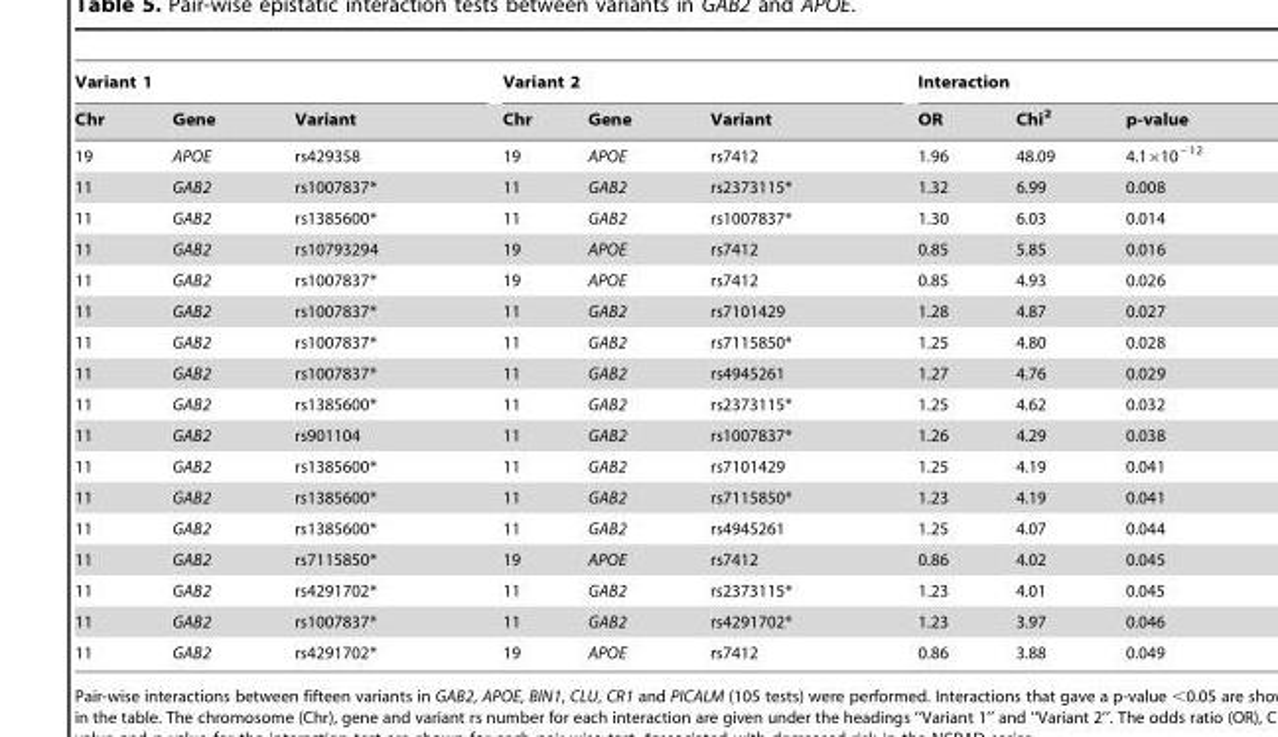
<table><thead><tr><td colspan="3">Variant 1</td><td colspan="3">Variant 2</td><td colspan="3">Interaction</td></tr><tr><td>Chr</td><td>Gene</td><td>Variant</td><td>Chr</td><td>Gene</td><td>Variant</td><td>OR</td><td>Chi<sup>2</sup></td><td>p-value</td></tr></thead><tbody><tr><td>19</td><td>APOE</td><td>rs429358</td><td>19</td><td>APOE</td><td>rs7412</td><td>1.96</td><td>48.09</td><td>4.1×10<sup>−12</sup></td></tr><tr><td>11</td><td>GAB2</td><td>rs1007837*</td><td>11</td><td>GAB2</td><td>rs2373115*</td><td>1.32</td><td>6.99</td><td>0.008</td></tr><tr><td>11</td><td>GAB2</td><td>rs1385600*</td><td>11</td><td>GAB2</td><td>rs1007837*</td><td>1.30</td><td>6.03</td><td>0.014</td></tr><tr><td>11</td><td>GAB2</td><td>rs10793294</td><td>19</td><td>APOE</td><td>rs7412</td><td>0.85</td><td>5.85</td><td>0.016</td></tr><tr><td>11</td><td>GAB2</td><td>rs1007837*</td><td>19</td><td>APOE</td><td>rs7412</td><td>0.85</td><td>4.93</td><td>0.026</td></tr><tr><td>11</td><td>GAB2</td><td>rs1007837*</td><td>11</td><td>GAB2</td><td>rs7101429</td><td>1.28</td><td>4.87</td><td>0.027</td></tr><tr><td>11</td><td>GAB2</td><td>rs1007837*</td><td>11</td><td>GAB2</td><td>rs7115850*</td><td>1.25</td><td>4.80</td><td>0.028</td></tr><tr><td>11</td><td>GAB2</td><td>rs1007837*</td><td>11</td><td>GAB2</td><td>rs4945261</td><td>1.27</td><td>4.76</td><td>0.029</td></tr><tr><td>11</td><td>GAB2</td><td>rs1385600*</td><td>11</td><td>GAB2</td><td>rs2373115*</td><td>1.25</td><td>4.62</td><td>0.032</td></tr><tr><td>11</td><td>GAB2</td><td>rs901104</td><td>11</td><td>GAB2</td><td>rs1007837*</td><td>1.26</td><td>4.29</td><td>0.038</td></tr><tr><td>11</td><td>GAB2</td><td>rs1385600*</td><td>11</td><td>GAB2</td><td>rs7101429</td><td>1.25</td><td>4.19</td><td>0.041</td></tr><tr><td>11</td><td>GAB2</td><td>rs1385600*</td><td>11</td><td>GAB2</td><td>rs7115850*</td><td>1.23</td><td>4.19</td><td>0.041</td></tr><tr><td>11</td><td>GAB2</td><td>rs1385600*</td><td>11</td><td>GAB2</td><td>rs4945261</td><td>1.25</td><td>4.07</td><td>0.044</td></tr><tr><td>11</td><td>GAB2</td><td>rs7115850*</td><td>19</td><td>APOE</td><td>rs7412</td><td>0.86</td><td>4.02</td><td>0.045</td></tr><tr><td>11</td><td>GAB2</td><td>rs4291702*</td><td>11</td><td>GAB2</td><td>rs2373115*</td><td>1.23</td><td>4.01</td><td>0.045</td></tr><tr><td>11</td><td>GAB2</td><td>rs1007837*</td><td>11</td><td>GAB2</td><td>rs4291702*</td><td>1.23</td><td>3.97</td><td>0.046</td></tr><tr><td>11</td><td>GAB2</td><td>rs4291702*</td><td>19</td><td>APOE</td><td>rs7412</td><td>0.86</td><td>3.88</td><td>0.049</td></tr></tbody></table>